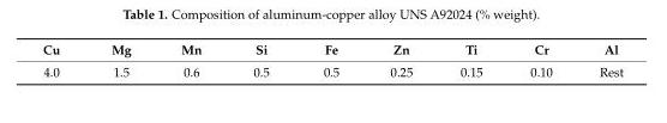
<table><thead><tr><td>Cu</td><td>Mg</td><td>Mn</td><td>Si</td><td>Fe</td><td>Zn</td><td>Ti</td><td>Cr</td><td>Al</td></tr></thead><tbody><tr><td>4.0</td><td>1.5</td><td>0.6</td><td>0.5</td><td>0.5</td><td>0.25</td><td>0.15</td><td>0.10</td><td>Rest</td></tr></tbody></table>